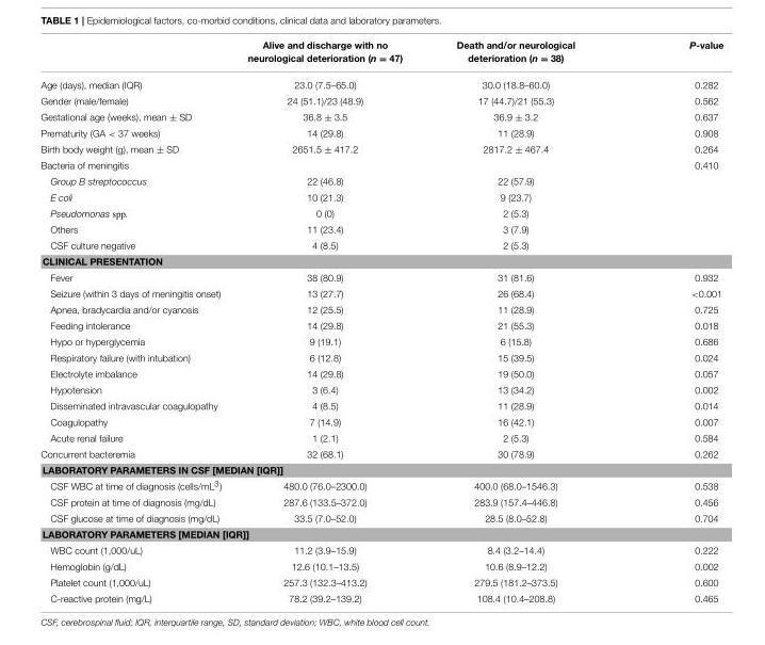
<table><thead><tr><td></td><td>Alive and discharge with no neurological deterioration (n = 47)</td><td>Death and/or neurological deterioration (n = 38)</td><td>P-value</td></tr></thead><tbody><tr><td>Age (days), median (IQR)</td><td>23.0 (7.5–65.0)</td><td>30.0 (18.8–60.0)</td><td>0.282</td></tr><tr><td>Gender (male/female)</td><td>24 (51.1)/23 (48.9)</td><td>17 (44.7)/21 (55.3)</td><td>0.562</td></tr><tr><td>Gestational age (weeks), mean ± SD</td><td>36.8 ± 3.5</td><td>36.9 ± 3.2</td><td>0.637</td></tr><tr><td>Prematurity (GA &lt; 37 weeks)</td><td>14 (29.8)</td><td>11 (28.9)</td><td>0.908</td></tr><tr><td>Birth body weight (g), mean ± SD</td><td>2651.5 ± 417.2</td><td>2817.2 ± 467.4</td><td>0.264</td></tr><tr><td>Bacteria of meningitis</td><td></td><td></td><td>0.410</td></tr><tr><td>Group B streptococcus</td><td>22 (46.8)</td><td>22 (57.9)</td><td></td></tr><tr><td>E coli</td><td>10 (21.3)</td><td>9 (23.7)</td><td></td></tr><tr><td>Pseudomonas spp.</td><td>0 (0)</td><td>2 (5.3)</td><td></td></tr><tr><td>Others</td><td>11 (23.4)</td><td>3 (7.9)</td><td></td></tr><tr><td>CSF culture negative</td><td>4 (8.5)</td><td>2 (5.3)</td><td></td></tr><tr><td colspan="4">CLINICAL PRESENTATION</td></tr><tr><td>Fever</td><td>38 (80.9)</td><td>31 (81.6)</td><td>0.932</td></tr><tr><td>Seizure (within 3 days of meningitis onset)</td><td>13 (27.7)</td><td>26 (68.4)</td><td>&lt;0.001</td></tr><tr><td>Apnea, bradycardia and/or cyanosis</td><td>12 (25.5)</td><td>11 (28.9)</td><td>0.725</td></tr><tr><td>Feeding intolerance</td><td>14 (29.8)</td><td>21 (55.3)</td><td>0.018</td></tr><tr><td>Hypo or hyperglycemia</td><td>9 (19.1)</td><td>6 (15.8)</td><td>0.686</td></tr><tr><td>Respiratory failure (with intubation)</td><td>6 (12.8)</td><td>15 (39.5)</td><td>0.024</td></tr><tr><td>Electrolyte imbalance</td><td>14 (29.8)</td><td>19 (50.0)</td><td>0.057</td></tr><tr><td>Hypotension</td><td>3 (6.4)</td><td>13 (34.2)</td><td>0.002</td></tr><tr><td>Disseminated intravascular coagulopathy</td><td>4 (8.5)</td><td>11 (28.9)</td><td>0.014</td></tr><tr><td>Coagulopathy</td><td>7 (14.9)</td><td>16 (42.1)</td><td>0.007</td></tr><tr><td>Acute renal failure</td><td>1 (2.1)</td><td>2 (5.3)</td><td>0.584</td></tr><tr><td>Concurrent bacteremia</td><td>32 (68.1)</td><td>30 (78.9)</td><td>0.262</td></tr><tr><td colspan="4">LABORATORY PARAMETERS IN CSF [MEDIAN [IQR]]</td></tr><tr><td>CSF WBC at time of diagnosis (cells/mL<sup>3</sup>)</td><td>480.0 (76.0–2300.0)</td><td>400.0 (68.0–1546.3)</td><td>0.538</td></tr><tr><td>CSF protein at time of diagnosis (mg/dL)</td><td>287.6 (133.5–372.0)</td><td>283.9 (157.4–446.8)</td><td>0.456</td></tr><tr><td>CSF glucose at time of diagnosis (mg/dL)</td><td>33.5 (7.0–52.0)</td><td>28.5 (8.0–52.8)</td><td>0.704</td></tr><tr><td colspan="4">LABORATORY PARAMETERS [MEDIAN [IQR]]</td></tr><tr><td>WBC count (1,000/uL)</td><td>11.2 (3.9–15.9)</td><td>8.4 (3.2–14.4)</td><td>0.222</td></tr><tr><td>Hemoglobin (g/dL)</td><td>12.6 (10.1–13.5)</td><td>10.6 (8.9–12.2)</td><td>0.002</td></tr><tr><td>Platelet count (1,000/uL)</td><td>257.3 (132.3–413.2)</td><td>279.5 (181.2–373.5)</td><td>0.600</td></tr><tr><td>C-reactive protein (mg/L)</td><td>78.2 (39.2–139.2)</td><td>108.4 (10.4–208.8)</td><td>0.465</td></tr></tbody></table>